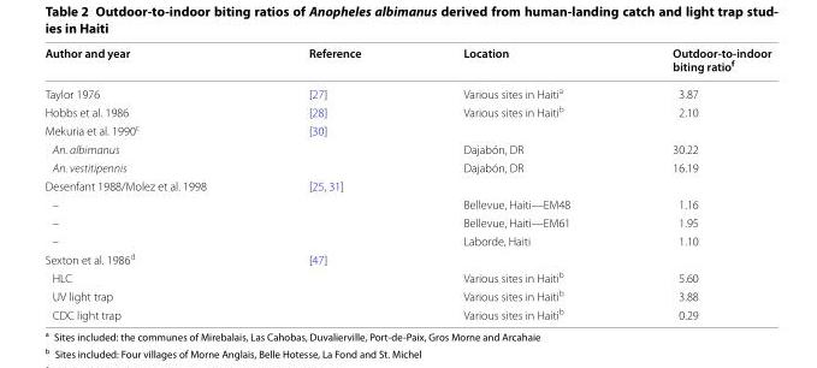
<table><thead><tr><td>Author and year</td><td>Reference</td><td>Location</td><td>Outdoor-to-indoor biting ratio<sup>f</sup></td></tr></thead><tbody><tr><td>Taylor 1976</td><td>[27]</td><td>Various sites in Haiti<sup>a</sup></td><td>3.87</td></tr><tr><td>Hobbs et al. 1986</td><td>[28]</td><td>Various sites in Haiti<sup>b</sup></td><td>2.10</td></tr><tr><td>Mekuria et al. 1990<sup>c</sup></td><td>[30]</td><td></td><td></td></tr><tr><td>An. albimanus</td><td></td><td>Dajabón, DR</td><td>30.22</td></tr><tr><td>An. vestitipennis</td><td></td><td>Dajabón, DR</td><td>16.19</td></tr><tr><td>Desenfant 1988/Molez et al. 1998</td><td>[25, 31]</td><td></td><td></td></tr><tr><td>–</td><td></td><td>Bellevue, Haiti—EM48</td><td>1.16</td></tr><tr><td>–</td><td></td><td>Bellevue, Haiti—EM61</td><td>1.95</td></tr><tr><td>–</td><td></td><td>Laborde, Haiti</td><td>1.10</td></tr><tr><td>Sexton et al. 1986<sup>d</sup></td><td>[47]</td><td></td><td></td></tr><tr><td>HLC</td><td></td><td>Various sites in Haiti<sup>b</sup></td><td>5.60</td></tr><tr><td>UV light trap</td><td></td><td>Various sites in Haiti<sup>b</sup></td><td>3.88</td></tr><tr><td>CDC light trap</td><td></td><td>Various sites in Haiti<sup>b</sup></td><td>0.29</td></tr></tbody></table>